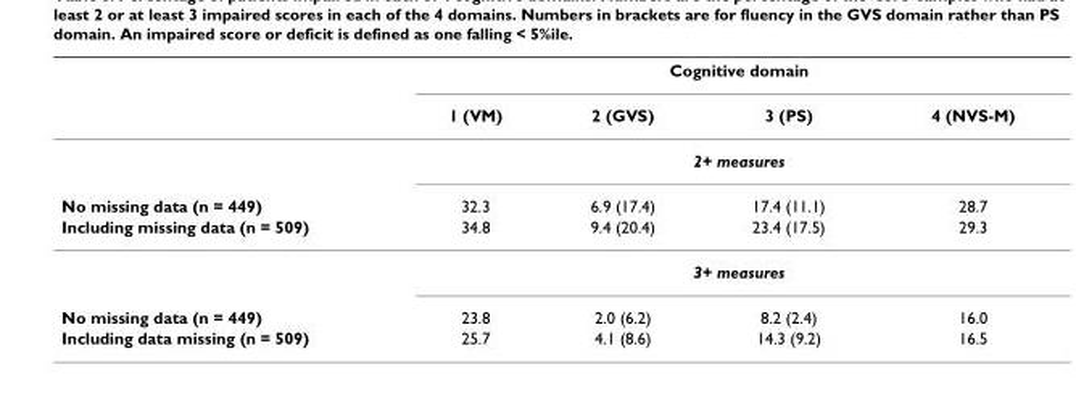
<table><thead><tr><td rowspan="2"></td><td colspan="4">Cognitive domain</td></tr><tr><td>1 (VM)</td><td>2 (GVS)</td><td>3 (PS)</td><td>4 (NVS-M)</td></tr></thead><tbody><tr><td></td><td colspan="4">2+ measures</td></tr><tr><td>No missing data (n = 449)</td><td>32.3</td><td>6.9 (17.4)</td><td>17.4 (11.1)</td><td>28.7</td></tr><tr><td rowspan="2">Including missing data (n = 509)</td><td>34.8</td><td>9.4 (20.4)</td><td>23.4 (17.5)</td><td>29.3</td></tr><tr><td colspan="4">3+ measures</td></tr><tr><td>No missing data (n = 449)</td><td>23.8</td><td>2.0 (6.2)</td><td>8.2 (2.4)</td><td>16.0</td></tr><tr><td>Including data missing (n = 509)</td><td>25.7</td><td>4.1 (8.6)</td><td>14.3 (9.2)</td><td>16.5</td></tr></tbody></table>